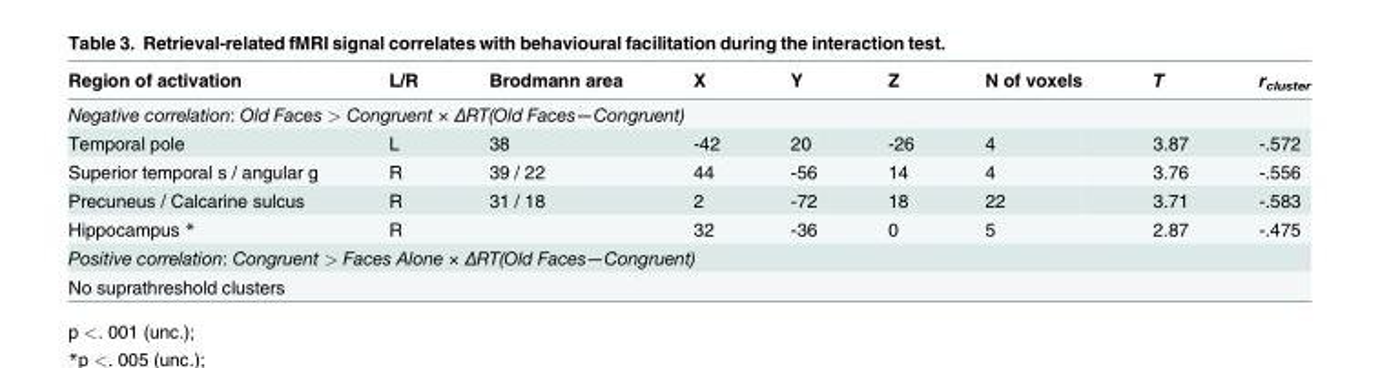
<table><thead><tr><td>Region of activation</td><td>L/R</td><td>Brodmann area</td><td>X</td><td>Y</td><td>Z</td><td>N of voxels</td><td>T</td><td>r<sub>cluster</sub></td></tr></thead><tbody><tr><td colspan="9">Negative correlation: Old Faces &gt; Congruent × ΔRT(Old Faces—Congruent)</td></tr><tr><td>Temporal pole</td><td>L</td><td>38</td><td>-42</td><td>20</td><td>-26</td><td>4</td><td>3.87</td><td>-.572</td></tr><tr><td>Superior temporal s / angular g</td><td>R</td><td>39 / 22</td><td>44</td><td>-56</td><td>14</td><td>4</td><td>3.76</td><td>-.556</td></tr><tr><td>Precuneus / Calcarine sulcus</td><td>R</td><td>31 / 18</td><td>2</td><td>-72</td><td>18</td><td>22</td><td>3.71</td><td>-.583</td></tr><tr><td>Hippocampus *</td><td>R</td><td></td><td>32</td><td>-36</td><td>0</td><td>5</td><td>2.87</td><td>-.475</td></tr><tr><td colspan="9">Positive correlation: Congruent &gt; Faces Alone × ΔRT(Old Faces—Congruent)</td></tr><tr><td colspan="9">No suprathreshold clusters</td></tr></tbody></table>